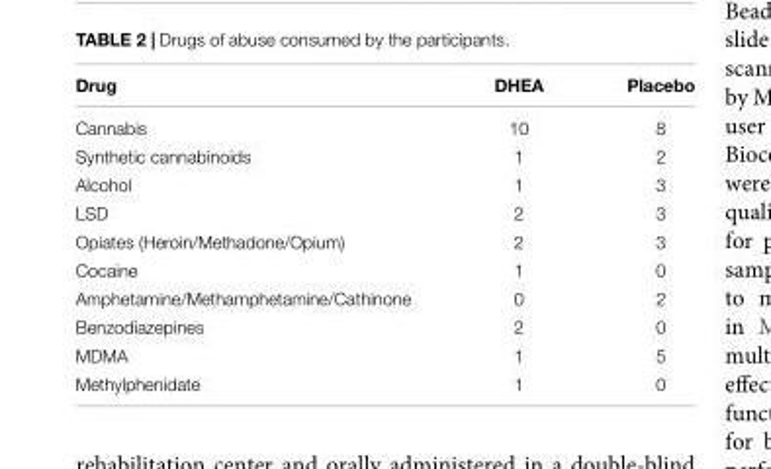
<table><thead><tr><td>Drug</td><td>DHEA</td><td>Placebo</td></tr></thead><tbody><tr><td>Cannabis</td><td>10</td><td>8</td></tr><tr><td>Synthetic cannabinoids</td><td>1</td><td>2</td></tr><tr><td>Alcohol</td><td>1</td><td>3</td></tr><tr><td>LSD</td><td>2</td><td>3</td></tr><tr><td>Opiates (Heroin/Methadone/Opium)</td><td>2</td><td>3</td></tr><tr><td>Cocaine</td><td>1</td><td>0</td></tr><tr><td>Amphetamine/Methamphetamine/Cathinone</td><td>0</td><td>2</td></tr><tr><td>Benzodiazepines</td><td>2</td><td>0</td></tr><tr><td>MDMA</td><td>1</td><td>5</td></tr><tr><td>Methylphenidate</td><td>1</td><td>0</td></tr></tbody></table>